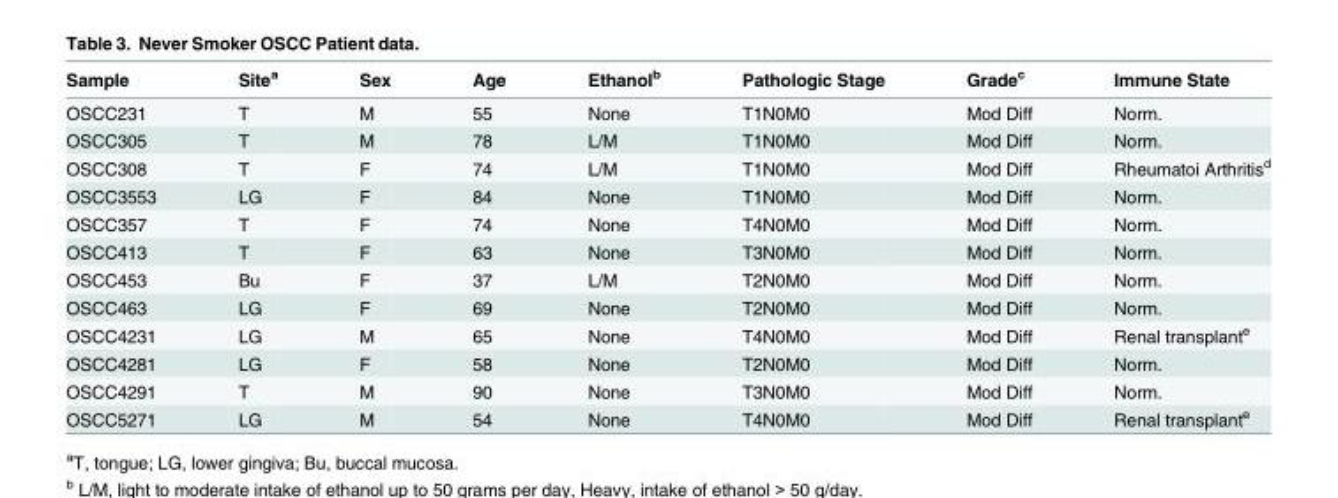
<table><thead><tr><td>Sample</td><td>Site<sup>a</sup></td><td>Sex</td><td>Age</td><td>Ethanol<sup>b</sup></td><td>Pathologic Stage</td><td>Grade<sup>c</sup></td><td>Immune State</td></tr></thead><tbody><tr><td>OSCC231</td><td>T</td><td>M</td><td>55</td><td>None</td><td>T1N0M0</td><td>Mod Diff</td><td>Norm.</td></tr><tr><td>OSCC305</td><td>T</td><td>M</td><td>78</td><td>L/M</td><td>T1N0M0</td><td>Mod Diff</td><td>Norm.</td></tr><tr><td>OSCC308</td><td>T</td><td>F</td><td>74</td><td>L/M</td><td>T1N0M0</td><td>Mod Diff</td><td>Rheumatoi Arthritis<sup>d</sup></td></tr><tr><td>OSCC3553</td><td>LG</td><td>F</td><td>84</td><td>None</td><td>T1N0M0</td><td>Mod Diff</td><td>Norm.</td></tr><tr><td>OSCC357</td><td>T</td><td>F</td><td>74</td><td>None</td><td>T4N0M0</td><td>Mod Diff</td><td>Norm.</td></tr><tr><td>OSCC413</td><td>T</td><td>F</td><td>63</td><td>None</td><td>T3N0M0</td><td>Mod Diff</td><td>Norm.</td></tr><tr><td>OSCC453</td><td>Bu</td><td>F</td><td>37</td><td>L/M</td><td>T2N0M0</td><td>Mod Diff</td><td>Norm.</td></tr><tr><td>OSCC463</td><td>LG</td><td>F</td><td>69</td><td>None</td><td>T2N0M0</td><td>Mod Diff</td><td>Norm.</td></tr><tr><td>OSCC4231</td><td>LG</td><td>M</td><td>65</td><td>None</td><td>T4N0M0</td><td>Mod Diff</td><td>Renal transplant<sup>e</sup></td></tr><tr><td>OSCC4281</td><td>LG</td><td>F</td><td>58</td><td>None</td><td>T2N0M0</td><td>Mod Diff</td><td>Norm.</td></tr><tr><td>OSCC4291</td><td>T</td><td>M</td><td>90</td><td>None</td><td>T3N0M0</td><td>Mod Diff</td><td>Norm.</td></tr><tr><td>OSCC5271</td><td>LG</td><td>M</td><td>54</td><td>None</td><td>T4N0M0</td><td>Mod Diff</td><td>Renal transplant<sup>e</sup></td></tr></tbody></table>